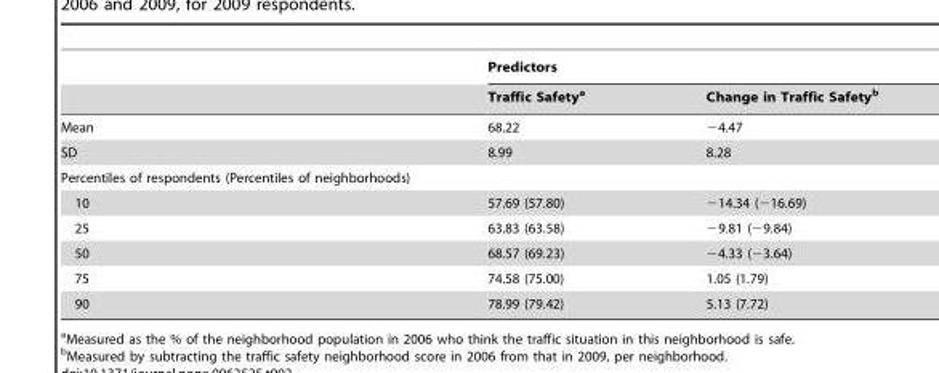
<table><thead><tr><td rowspan="2"></td><td colspan="2">Predictors</td></tr><tr><td>Traffic Safety<sup>a</sup></td><td>Change in Traffic Safety<sup>b</sup></td></tr></thead><tbody><tr><td>Mean</td><td>68.22</td><td>−4.47</td></tr><tr><td>SD</td><td>8.99</td><td>8.28</td></tr><tr><td colspan="3">Percentiles of respondents (Percentiles of neighborhoods)</td></tr><tr><td>10</td><td>57.69 (57.80)</td><td>−14.34 (−16.69)</td></tr><tr><td>25</td><td>63.83 (63.58)</td><td>−9.81 (−9.84)</td></tr><tr><td>50</td><td>68.57 (69.23)</td><td>−4.33 (−3.64)</td></tr><tr><td>75</td><td>74.58 (75.00)</td><td>1.05 (1.79)</td></tr><tr><td>90</td><td>78.99 (79.42)</td><td>5.13 (7.72)</td></tr></tbody></table>